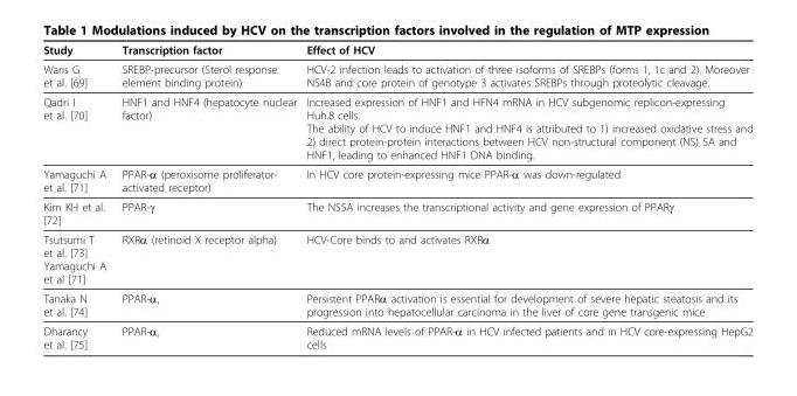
<table><thead><tr><td>Study</td><td>Transcription factor</td><td>Effect of HCV</td></tr></thead><tbody><tr><td>Waris G et al. [69]</td><td>SREBP-precursor (Sterol response element binding protein)</td><td>HCV-2 infection leads to activation of three isoforms of SREBPs (forms 1, 1c and 2). Moreover NS4B and core protein of genotype 3 activates SREBPs through proteolytic cleavage.</td></tr><tr><td>Qadri I et al. [70]</td><td>HNF1 and HNF4 (hepatocyte nuclear factor)</td><td>Increased expression of HNF1 and HFN4 mRNA in HCV subgenomic replicon-expressing Huh.8 cells. The ability of HCV to induce HNF1 and HNF4 is attributed to 1) increased oxidative stress and 2) direct protein-protein interactions between HCV non-structural component (NS) 5A and HNF1, leading to enhanced HNF1 DNA binding.</td></tr><tr><td>Yamaguchi A et al. [71]</td><td>PPAR-α (peroxisome proliferator- activated receptor)</td><td>In HCV core protein-expressing mice PPAR-α was down-regulated</td></tr><tr><td>Kim KH et al. [72]</td><td>PPAR-γ</td><td>The NS5A increases the transcriptional activity and gene expression of PPARγ</td></tr><tr><td>Tsutsumi T et al. [73] Yamaguchi A et al [71]</td><td>RXRα (retinoid X receptor alpha)</td><td>HCV-Core binds to and activates RXRα</td></tr><tr><td>Tanaka N et al. [74]</td><td>PPAR-α,</td><td>Persistent PPARα activation is essential for development of severe hepatic steatosis and its progression into hepatocellular carcinoma in the liver of core gene transgenic mice</td></tr><tr><td>Dharancy et al. [75]</td><td>PPAR-α,</td><td>Reduced mRNA levels of PPAR-α in HCV infected patients and in HCV core-expressing HepG2 cells</td></tr></tbody></table>